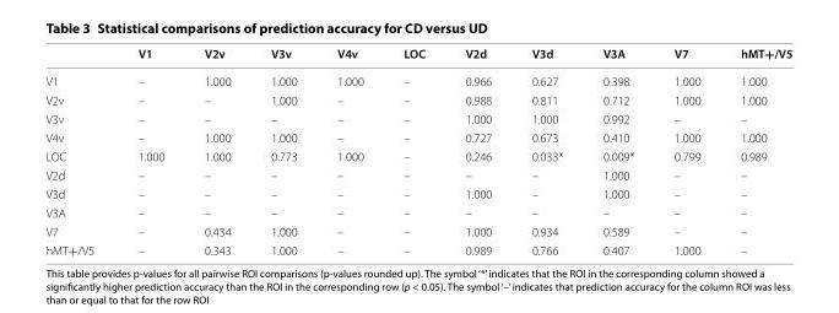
<table><thead><tr><td></td><td>V1</td><td>V2v</td><td>V3v</td><td>V4v</td><td>LOC</td><td>V2d</td><td>V3d</td><td>V3A</td><td>V7</td><td>hMT+/V5</td></tr></thead><tbody><tr><td>V1</td><td>–</td><td>1.000</td><td>1.000</td><td>1.000</td><td>–</td><td>0.966</td><td>0.627</td><td>0.398</td><td>1.000</td><td>1.000</td></tr><tr><td>V2v</td><td>–</td><td>–</td><td>1.000</td><td>–</td><td>–</td><td>0.988</td><td>0.811</td><td>0.712</td><td>1.000</td><td>1.000</td></tr><tr><td>V3v</td><td>–</td><td>–</td><td>–</td><td>–</td><td>–</td><td>1.000</td><td>1.000</td><td>0.992</td><td>–</td><td>–</td></tr><tr><td>V4v</td><td>–</td><td>1.000</td><td>1.000</td><td>–</td><td>–</td><td>0.727</td><td>0.673</td><td>0.410</td><td>1.000</td><td>1.000</td></tr><tr><td>LOC</td><td>1.000</td><td>1.000</td><td>0.773</td><td>1.000</td><td>–</td><td>0.246</td><td>0.033*</td><td>0.009*</td><td>0.799</td><td>0.989</td></tr><tr><td>V2d</td><td>–</td><td>–</td><td>–</td><td>–</td><td>–</td><td>–</td><td>–</td><td>1.000</td><td>–</td><td>–</td></tr><tr><td>V3d</td><td>–</td><td>–</td><td>–</td><td>–</td><td>–</td><td>1.000</td><td>–</td><td>1.000</td><td>–</td><td>–</td></tr><tr><td>V3A</td><td>–</td><td>–</td><td>–</td><td>–</td><td>–</td><td>–</td><td>–</td><td>–</td><td>–</td><td>–</td></tr><tr><td>V7</td><td>–</td><td>0.434</td><td>1.000</td><td>–</td><td>–</td><td>1.000</td><td>0.934</td><td>0.589</td><td>–</td><td>–</td></tr><tr><td>hMT+/V5</td><td>–</td><td>0.343</td><td>1.000</td><td>–</td><td>–</td><td>0.989</td><td>0.766</td><td>0.407</td><td>1.000</td><td>–</td></tr></tbody></table>